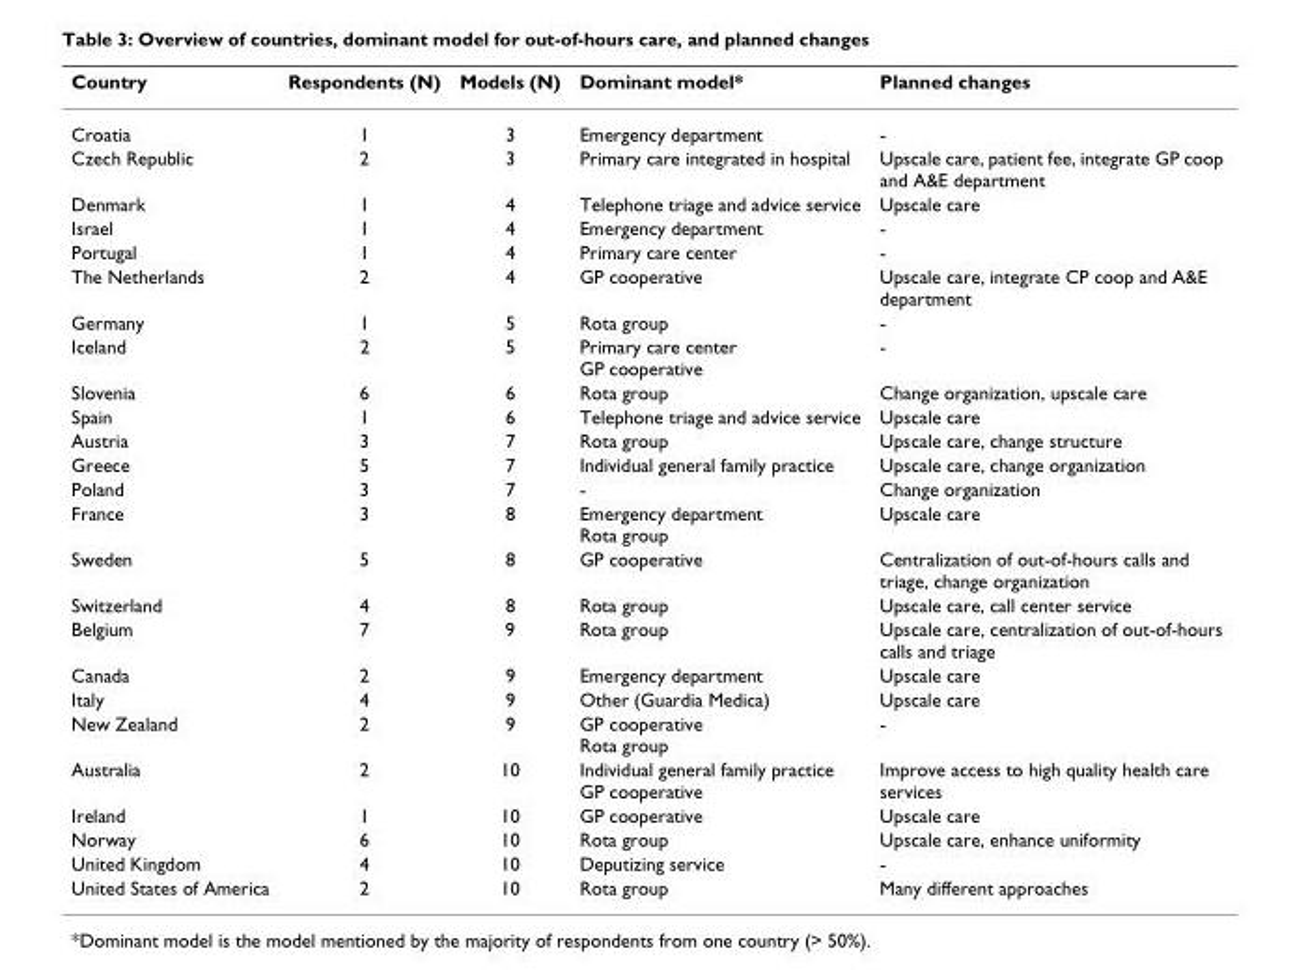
<table><thead><tr><td>Country</td><td>Respondents (N)</td><td>Models (N)</td><td>Dominant model*</td><td>Planned changes</td></tr></thead><tbody><tr><td>Croatia</td><td>1</td><td>3</td><td>Emergency department</td><td>-</td></tr><tr><td>Czech Republic</td><td>2</td><td>3</td><td>Primary care integrated in hospital</td><td>Upscale care, patient fee, integrate GP coop and A&amp;E department</td></tr><tr><td>Denmark</td><td>1</td><td>4</td><td>Telephone triage and advice service</td><td>Upscale care</td></tr><tr><td>Israel</td><td>1</td><td>4</td><td>Emergency department</td><td>-</td></tr><tr><td>Portugal</td><td>1</td><td>4</td><td>Primary care center</td><td>-</td></tr><tr><td>The Netherlands</td><td>2</td><td>4</td><td>GP cooperative</td><td>Upscale care, integrate CP coop and A&amp;E department</td></tr><tr><td>Germany</td><td>1</td><td>5</td><td>Rota group</td><td>-</td></tr><tr><td>Iceland</td><td>2</td><td>5</td><td>Primary care center GP cooperative</td><td>-</td></tr><tr><td>Slovenia</td><td>6</td><td>6</td><td>Rota group</td><td>Change organization, upscale care</td></tr><tr><td>Spain</td><td>1</td><td>6</td><td>Telephone triage and advice service</td><td>Upscale care</td></tr><tr><td>Austria</td><td>3</td><td>7</td><td>Rota group</td><td>Upscale care, change structure</td></tr><tr><td>Greece</td><td>5</td><td>7</td><td>Individual general family practice</td><td>Upscale care, change organization</td></tr><tr><td>Poland</td><td>3</td><td>7</td><td>-</td><td>Change organization</td></tr><tr><td>France</td><td>3</td><td>8</td><td>Emergency department Rota group</td><td>Upscale care</td></tr><tr><td>Sweden</td><td>5</td><td>8</td><td>GP cooperative</td><td>Centralization of out-of-hours calls and triage, change organization</td></tr><tr><td>Switzerland</td><td>4</td><td>8</td><td>Rota group</td><td>Upscale care, call center service</td></tr><tr><td>Belgium</td><td>7</td><td>9</td><td>Rota group</td><td>Upscale care, centralization of out-of-hours calls and triage</td></tr><tr><td>Canada</td><td>2</td><td>9</td><td>Emergency department</td><td>Upscale care</td></tr><tr><td>Italy</td><td>4</td><td>9</td><td>Other (Guardia Medica)</td><td>Upscale care</td></tr><tr><td>New Zealand</td><td>2</td><td>9</td><td>GP cooperative Rota group</td><td>-</td></tr><tr><td>Australia</td><td>2</td><td>10</td><td>Individual general family practice GP cooperative</td><td>Improve access to high quality health care services</td></tr><tr><td>Ireland</td><td>1</td><td>10</td><td>GP cooperative</td><td>Upscale care</td></tr><tr><td>Norway</td><td>6</td><td>10</td><td>Rota group</td><td>Upscale care, enhance uniformity</td></tr><tr><td>United Kingdom</td><td>4</td><td>10</td><td>Deputizing service</td><td>-</td></tr><tr><td>United States of America</td><td>2</td><td>10</td><td>Rota group</td><td>Many different approaches</td></tr></tbody></table>